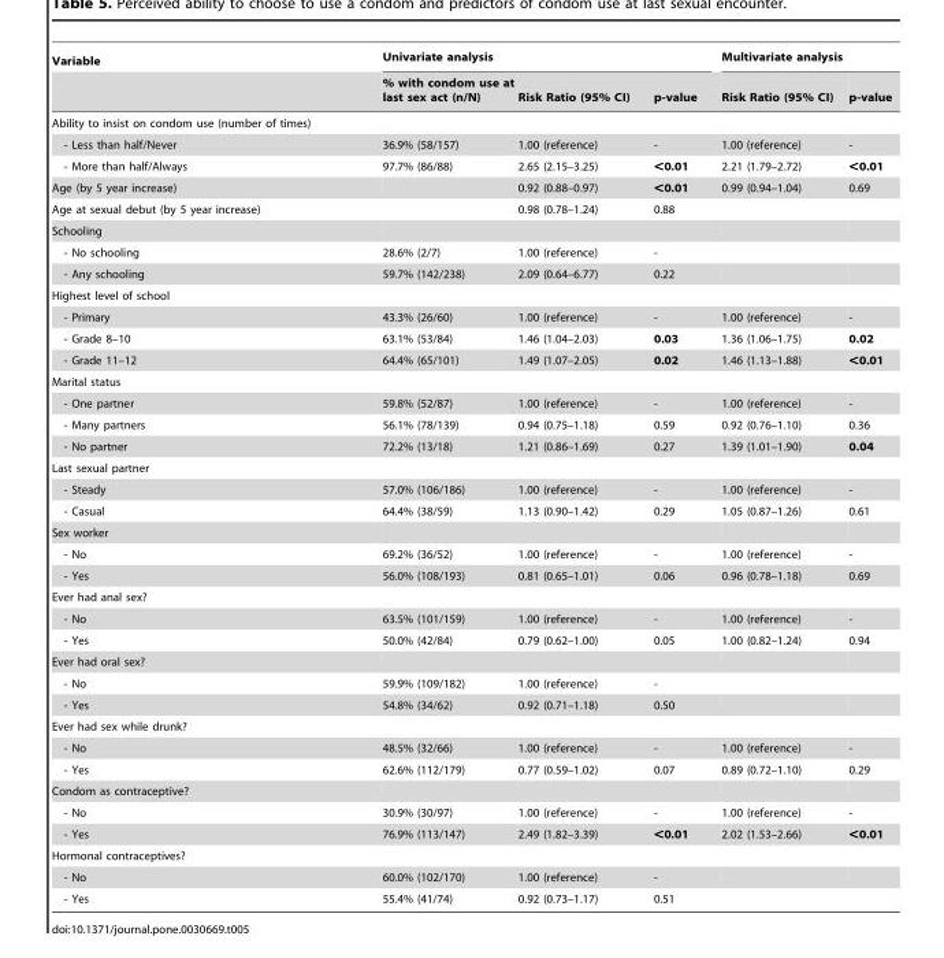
<table><thead><tr><td rowspan="2">Variable</td><td colspan="3">Univariate analysis</td><td colspan="2">Multivariate analysis</td></tr><tr><td>% with condom use at last sex act (n/N)</td><td>Risk Ratio (95% CI)</td><td>p-value</td><td>Risk Ratio (95% CI)</td><td>p-value</td></tr></thead><tbody><tr><td colspan="6">Ability to insist on condom use (number of times)</td></tr><tr><td>- Less than half/Never</td><td>36.9% (58/157)</td><td>1.00 (reference)</td><td>-</td><td>1.00 (reference)</td><td>-</td></tr><tr><td>- More than half/Always</td><td>97.7% (86/88)</td><td>2.65 (2.15–3.25)</td><td>&lt;0.01</td><td>2.21 (1.79–2.72)</td><td>&lt;0.01</td></tr><tr><td>Age (by 5 year increase)</td><td></td><td>0.92 (0.88–0.97)</td><td>&lt;0.01</td><td>0.99 (0.94–1.04)</td><td>0.69</td></tr><tr><td>Age at sexual debut (by 5 year increase)</td><td></td><td>0.98 (0.78–1.24)</td><td>0.88</td><td></td><td></td></tr><tr><td colspan="6">Schooling</td></tr><tr><td>- No schooling</td><td>28.6% (2/7)</td><td>1.00 (reference)</td><td>-</td><td></td><td></td></tr><tr><td>- Any schooling</td><td>59.7% (142/238)</td><td>2.09 (0.64–6.77)</td><td>0.22</td><td></td><td></td></tr><tr><td colspan="6">Highest level of school</td></tr><tr><td>- Primary</td><td>43.3% (26/60)</td><td>1.00 (reference)</td><td>-</td><td>1.00 (reference)</td><td>-</td></tr><tr><td>- Grade 8–10</td><td>63.1% (53/84)</td><td>1.46 (1.04–2.03)</td><td>0.03</td><td>1.36 (1.06–1.75)</td><td>0.02</td></tr><tr><td>- Grade 11–12</td><td>64.4% (65/101)</td><td>1.49 (1.07–2.05)</td><td>0.02</td><td>1.46 (1.13–1.88)</td><td>&lt;0.01</td></tr><tr><td colspan="6">Marital status</td></tr><tr><td>- One partner</td><td>59.8% (52/87)</td><td>1.00 (reference)</td><td>-</td><td>1.00 (reference)</td><td>-</td></tr><tr><td>- Many partners</td><td>56.1% (78/139)</td><td>0.94 (0.75–1.18)</td><td>0.59</td><td>0.92 (0.76–1.10)</td><td>0.36</td></tr><tr><td>- No partner</td><td>72.2% (13/18)</td><td>1.21 (0.86–1.69)</td><td>0.27</td><td>1.39 (1.01–1.90)</td><td>0.04</td></tr><tr><td colspan="6">Last sexual partner</td></tr><tr><td>- Steady</td><td>57.0% (106/186)</td><td>1.00 (reference)</td><td>-</td><td>1.00 (reference)</td><td>-</td></tr><tr><td>- Casual</td><td>64.4% (38/59)</td><td>1.13 (0.90–1.42)</td><td>0.29</td><td>1.05 (0.87–1.26)</td><td>0.61</td></tr><tr><td colspan="6">Sex worker</td></tr><tr><td>- No</td><td>69.2% (36/52)</td><td>1.00 (reference)</td><td>-</td><td>1.00 (reference)</td><td>-</td></tr><tr><td>- Yes</td><td>56.0% (108/193)</td><td>0.81 (0.65–1.01)</td><td>0.06</td><td>0.96 (0.78–1.18)</td><td>0.69</td></tr><tr><td colspan="6">Ever had anal sex?</td></tr><tr><td>- No</td><td>63.5% (101/159)</td><td>1.00 (reference)</td><td>-</td><td>1.00 (reference)</td><td>-</td></tr><tr><td>- Yes</td><td>50.0% (42/84)</td><td>0.79 (0.62–1.00)</td><td>0.05</td><td>1.00 (0.82–1.24)</td><td>0.94</td></tr><tr><td colspan="6">Ever had oral sex?</td></tr><tr><td>- No</td><td>59.9% (109/182)</td><td>1.00 (reference)</td><td>-</td><td></td><td></td></tr><tr><td>- Yes</td><td>54.8% (34/62)</td><td>0.92 (0.71–1.18)</td><td>0.50</td><td></td><td></td></tr><tr><td colspan="6">Ever had sex while drunk?</td></tr><tr><td>- No</td><td>48.5% (32/66)</td><td>1.00 (reference)</td><td>-</td><td>1.00 (reference)</td><td>-</td></tr><tr><td>- Yes</td><td>62.6% (112/179)</td><td>0.77 (0.59–1.02)</td><td>0.07</td><td>0.89 (0.72–1.10)</td><td>0.29</td></tr><tr><td colspan="6">Condom as contraceptive?</td></tr><tr><td>- No</td><td>30.9% (30/97)</td><td>1.00 (reference)</td><td>-</td><td>1.00 (reference)</td><td>-</td></tr><tr><td>- Yes</td><td>76.9% (113/147)</td><td>2.49 (1.82–3.39)</td><td>&lt;0.01</td><td>2.02 (1.53–2.66)</td><td>&lt;0.01</td></tr><tr><td colspan="6">Hormonal contraceptives?</td></tr><tr><td>- No</td><td>60.0% (102/170)</td><td>1.00 (reference)</td><td>-</td><td></td><td></td></tr><tr><td>- Yes</td><td>55.4% (41/74)</td><td>0.92 (0.73–1.17)</td><td>0.51</td><td></td><td></td></tr></tbody></table>